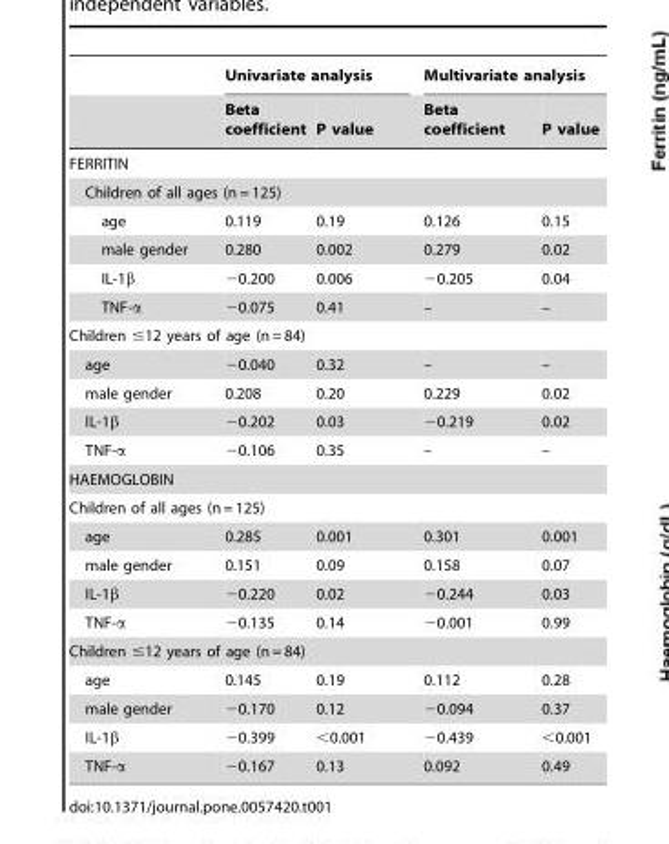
<table><thead><tr><td rowspan="2"></td><td colspan="2">Univariate analysis</td><td colspan="2">Multivariate analysis</td></tr><tr><td>Beta coefficient</td><td>P value</td><td>Beta coefficient</td><td>P value</td></tr></thead><tbody><tr><td colspan="5">FERRITIN</td></tr><tr><td colspan="5">Children of all ages (n = 125)</td></tr><tr><td>age</td><td>0.119</td><td>0.19</td><td>0.126</td><td>0.15</td></tr><tr><td>male gender</td><td>0.280</td><td>0.002</td><td>0.279</td><td>0.02</td></tr><tr><td>IL-1β</td><td>−0.200</td><td>0.006</td><td>−0.205</td><td>0.04</td></tr><tr><td>TNF-α</td><td>−0.075</td><td>0.41</td><td>–</td><td>–</td></tr><tr><td colspan="5">Children ≤12 years of age (n = 84)</td></tr><tr><td>age</td><td>−0.040</td><td>0.32</td><td>–</td><td>–</td></tr><tr><td>male gender</td><td>0.208</td><td>0.20</td><td>0.229</td><td>0.02</td></tr><tr><td>IL-1β</td><td>−0.202</td><td>0.03</td><td>−0.219</td><td>0.02</td></tr><tr><td>TNF-α</td><td>−0.106</td><td>0.35</td><td>–</td><td>–</td></tr><tr><td colspan="5">HAEMOGLOBIN</td></tr><tr><td colspan="5">Children of all ages (n = 125)</td></tr><tr><td>age</td><td>0.285</td><td>0.001</td><td>0.301</td><td>0.001</td></tr><tr><td>male gender</td><td>0.151</td><td>0.09</td><td>0.158</td><td>0.07</td></tr><tr><td>IL-1β</td><td>−0.220</td><td>0.02</td><td>−0.244</td><td>0.03</td></tr><tr><td>TNF-α</td><td>−0.135</td><td>0.14</td><td>−0.001</td><td>0.99</td></tr><tr><td colspan="5">Children ≤12 years of age (n = 84)</td></tr><tr><td>age</td><td>0.145</td><td>0.19</td><td>0.112</td><td>0.28</td></tr><tr><td>male gender</td><td>−0.170</td><td>0.12</td><td>−0.094</td><td>0.37</td></tr><tr><td>IL-1β</td><td>−0.399</td><td>&lt;0.001</td><td>−0.439</td><td>&lt;0.001</td></tr><tr><td>TNF-α</td><td>−0.167</td><td>0.13</td><td>0.092</td><td>0.49</td></tr></tbody></table>